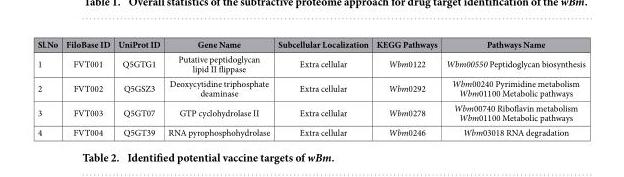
<table><thead><tr><td>Sl.No</td><td>FiloBase ID</td><td>UniProt ID</td><td>Gene Name</td><td>Subcellular Localization</td><td>KEGG Pathways</td><td>Pathways Name</td></tr></thead><tbody><tr><td>1</td><td>FVT001</td><td>Q5GTG1</td><td>Putative peptidoglycan lipid II flippase</td><td>Extra cellular</td><td>Wbm0122</td><td>Wbm00550 Peptidoglycan biosynthesis</td></tr><tr><td>2</td><td>FVT002</td><td>Q5GSZ3</td><td>Deoxycytidine triphosphate deaminase</td><td>Extra cellular</td><td>Wbm0292</td><td>Wbm00240 Pyrimidine metabolism Wbm01100 Metabolic pathways</td></tr><tr><td>3</td><td>FVT003</td><td>Q5GT07</td><td>GTP cyclohydrolase II</td><td>Extra cellular</td><td>Wbm0278</td><td>Wbm00740 Riboflavin metabolism Wbm01100 Metabolic pathways</td></tr><tr><td>4</td><td>FVT004</td><td>Q5GT39</td><td>RNA pyrophosphohydrolase</td><td>Extra cellular</td><td>Wbm0246</td><td>Wbm03018 RNA degradation</td></tr></tbody></table>